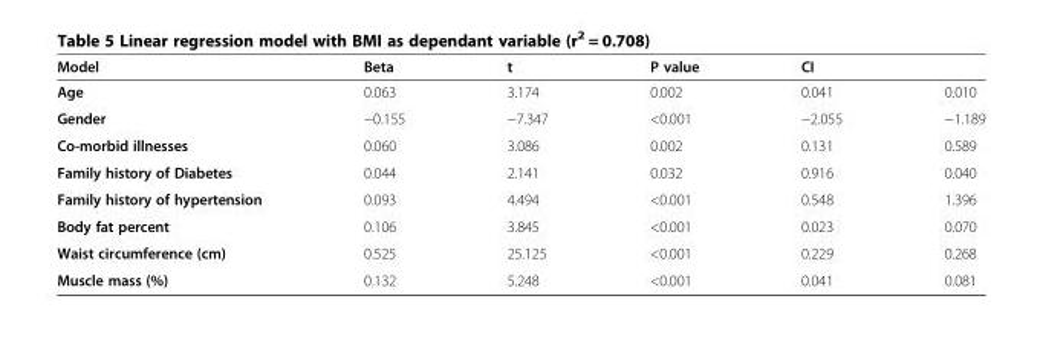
<table><thead><tr><td rowspan="2">Model Age</td><td rowspan="2">Beta 0.063</td><td rowspan="2">t 3.174</td><td rowspan="2">P value 0.002</td><td colspan="2">CI</td></tr><tr><td>0.041</td><td>0.010</td></tr></thead><tbody><tr><td>Gender</td><td>−0.155</td><td>−7.347</td><td>&lt;0.001</td><td>−2.055</td><td>−1.189</td></tr><tr><td>Co-morbid illnesses</td><td>0.060</td><td>3.086</td><td>0.002</td><td>0.131</td><td>0.589</td></tr><tr><td>Family history of Diabetes</td><td>0.044</td><td>2.141</td><td>0.032</td><td>0.916</td><td>0.040</td></tr><tr><td>Family history of hypertension</td><td>0.093</td><td>4.494</td><td>&lt;0.001</td><td>0.548</td><td>1.396</td></tr><tr><td>Body fat percent</td><td>0.106</td><td>3.845</td><td>&lt;0.001</td><td>0.023</td><td>0.070</td></tr><tr><td>Waist circumference (cm)</td><td>0.525</td><td>25.125</td><td>&lt;0.001</td><td>0.229</td><td>0.268</td></tr><tr><td>Muscle mass (%)</td><td>0.132</td><td>5.248</td><td>&lt;0.001</td><td>0.041</td><td>0.081</td></tr></tbody></table>